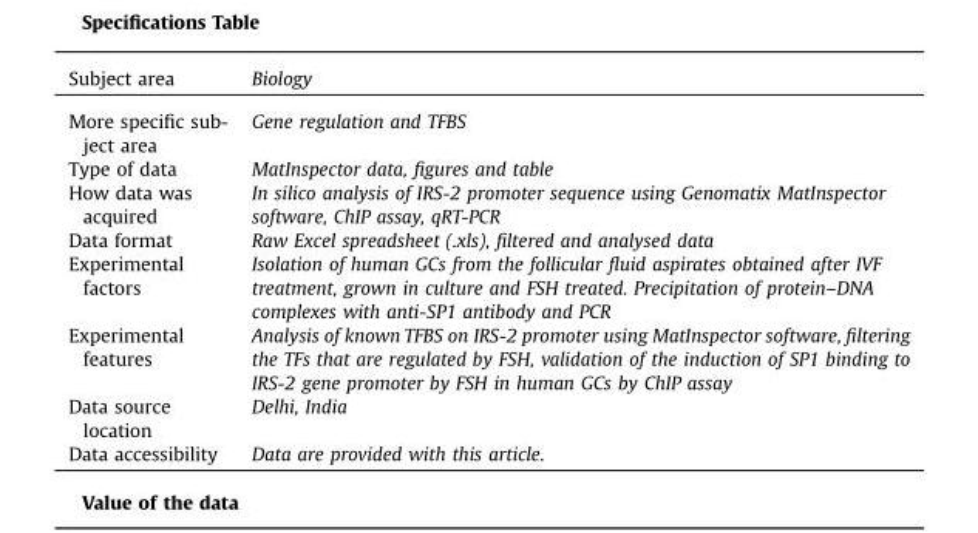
<table><thead><tr><td>Subject area</td><td>Biology</td></tr></thead><tbody><tr><td>More specific sub- ject area</td><td>Gene regulation and TFBS</td></tr><tr><td>Type of data</td><td>MatInspector data, figures and table</td></tr><tr><td>How data was acquired</td><td>In silico analysis of IRS-2 promoter sequence using Genomatix MatInspector software, ChIP assay, qRT-PCR</td></tr><tr><td>Data format</td><td>Raw Excel spreadsheet (.xls), filtered and analysed data</td></tr><tr><td>Experimental factors</td><td>Isolation of human GCs from the follicular fluid aspirates obtained after IVF treatment, grown in culture and FSH treated. Precipitation of protein–DNA complexes with anti-SP1 antibody and PCR</td></tr><tr><td>Experimental features</td><td>Analysis of known TFBS on IRS-2 promoter using MatInspector software, filtering the TFs that are regulated by FSH, validation of the induction of SP1 binding to IRS-2 gene promoter by FSH in human GCs by ChIP assay</td></tr><tr><td>Data source location</td><td>Delhi, India</td></tr><tr><td>Data accessibility</td><td>Data are provided with this article.</td></tr></tbody></table>